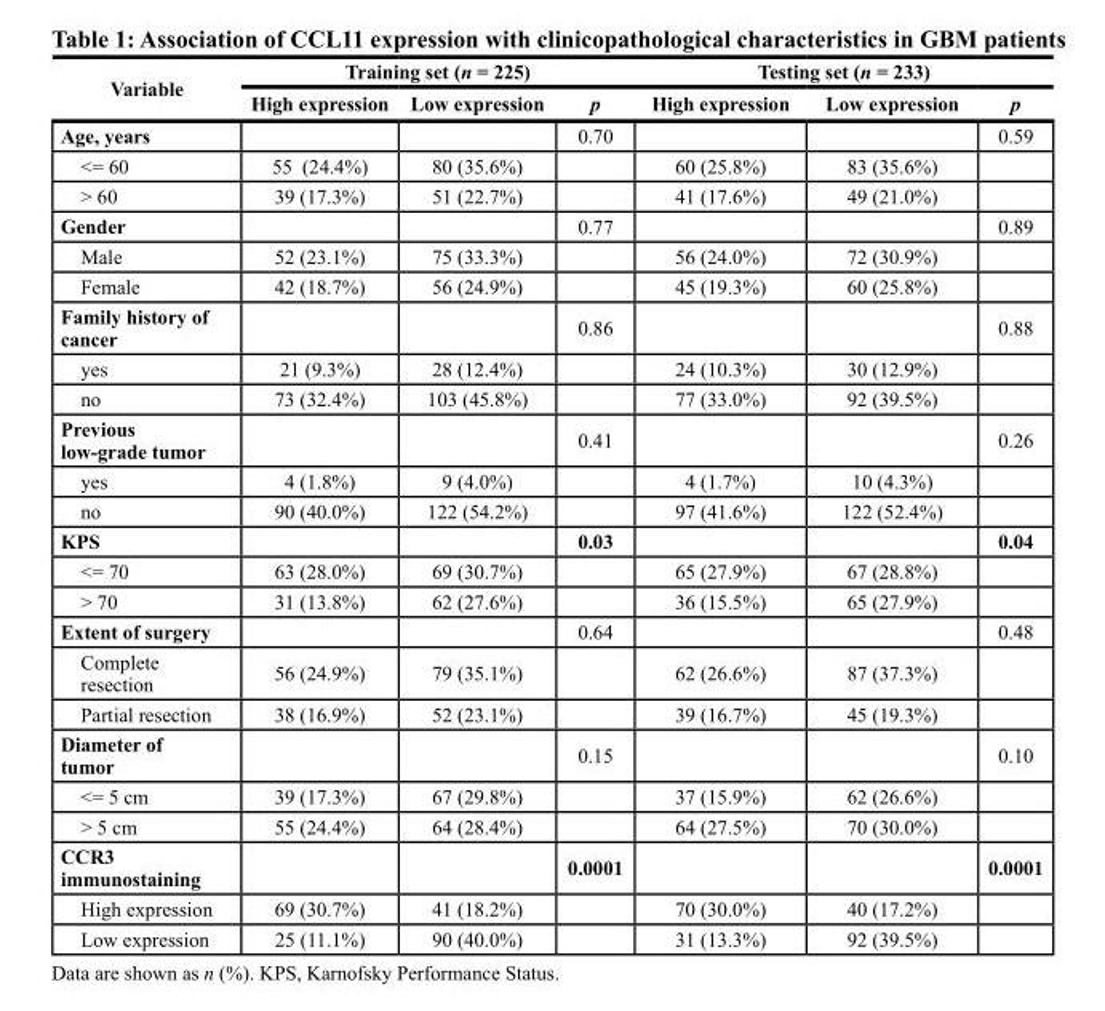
<table><thead><tr><td rowspan="2">Variable</td><td colspan="3">Training set (n = 225)</td><td colspan="3">Testing set (n = 233)</td></tr><tr><td>High expression</td><td>Low expression</td><td>p</td><td>High expression</td><td>Low expression</td><td>p</td></tr></thead><tbody><tr><td>Age, years</td><td></td><td></td><td>0.70</td><td></td><td></td><td>0.59</td></tr><tr><td>&lt;= 60</td><td>55 (24.4%)</td><td>80 (35.6%)</td><td></td><td>60 (25.8%)</td><td>83 (35.6%)</td><td></td></tr><tr><td>&gt; 60</td><td>39 (17.3%)</td><td>51 (22.7%)</td><td></td><td>41 (17.6%)</td><td>49 (21.0%)</td><td></td></tr><tr><td>Gender</td><td></td><td></td><td>0.77</td><td></td><td></td><td>0.89</td></tr><tr><td>Male</td><td>52 (23.1%)</td><td>75 (33.3%)</td><td></td><td>56 (24.0%)</td><td>72 (30.9%)</td><td></td></tr><tr><td>Female</td><td>42 (18.7%)</td><td>56 (24.9%)</td><td></td><td>45 (19.3%)</td><td>60 (25.8%)</td><td></td></tr><tr><td>Family history of cancer</td><td></td><td></td><td>0.86</td><td></td><td></td><td>0.88</td></tr><tr><td>yes</td><td>21 (9.3%)</td><td>28 (12.4%)</td><td></td><td>24 (10.3%)</td><td>30 (12.9%)</td><td></td></tr><tr><td>no</td><td>73 (32.4%)</td><td>103 (45.8%)</td><td></td><td>77 (33.0%)</td><td>92 (39.5%)</td><td></td></tr><tr><td>Previous low-grade tumor</td><td></td><td></td><td>0.41</td><td></td><td></td><td>0.26</td></tr><tr><td>yes</td><td>4 (1.8%)</td><td>9 (4.0%)</td><td></td><td>4 (1.7%)</td><td>10 (4.3%)</td><td></td></tr><tr><td>no</td><td>90 (40.0%)</td><td>122 (54.2%)</td><td></td><td>97 (41.6%)</td><td>122 (52.4%)</td><td></td></tr><tr><td>KPS</td><td></td><td></td><td>0.03</td><td></td><td></td><td>0.04</td></tr><tr><td>&lt;= 70</td><td>63 (28.0%)</td><td>69 (30.7%)</td><td></td><td>65 (27.9%)</td><td>67 (28.8%)</td><td></td></tr><tr><td>&gt; 70</td><td>31 (13.8%)</td><td>62 (27.6%)</td><td></td><td>36 (15.5%)</td><td>65 (27.9%)</td><td></td></tr><tr><td>Extent of surgery</td><td></td><td></td><td>0.64</td><td></td><td></td><td>0.48</td></tr><tr><td>Complete resection</td><td>56 (24.9%)</td><td>79 (35.1%)</td><td></td><td>62 (26.6%)</td><td>87 (37.3%)</td><td></td></tr><tr><td>Partial resection</td><td>38 (16.9%)</td><td>52 (23.1%)</td><td></td><td>39 (16.7%)</td><td>45 (19.3%)</td><td></td></tr><tr><td>Diameter of tumor</td><td></td><td></td><td>0.15</td><td></td><td></td><td>0.10</td></tr><tr><td>&lt;= 5 cm</td><td>39 (17.3%)</td><td>67 (29.8%)</td><td></td><td>37 (15.9%)</td><td>62 (26.6%)</td><td></td></tr><tr><td>&gt; 5 cm</td><td>55 (24.4%)</td><td>64 (28.4%)</td><td></td><td>64 (27.5%)</td><td>70 (30.0%)</td><td></td></tr><tr><td>CCR3 immunostaining</td><td></td><td></td><td>0.0001</td><td></td><td></td><td>0.0001</td></tr><tr><td>High expression</td><td>69 (30.7%)</td><td>41 (18.2%)</td><td></td><td>70 (30.0%)</td><td>40 (17.2%)</td><td></td></tr><tr><td>Low expression</td><td>25 (11.1%)</td><td>90 (40.0%)</td><td></td><td>31 (13.3%)</td><td>92 (39.5%)</td><td></td></tr></tbody></table>